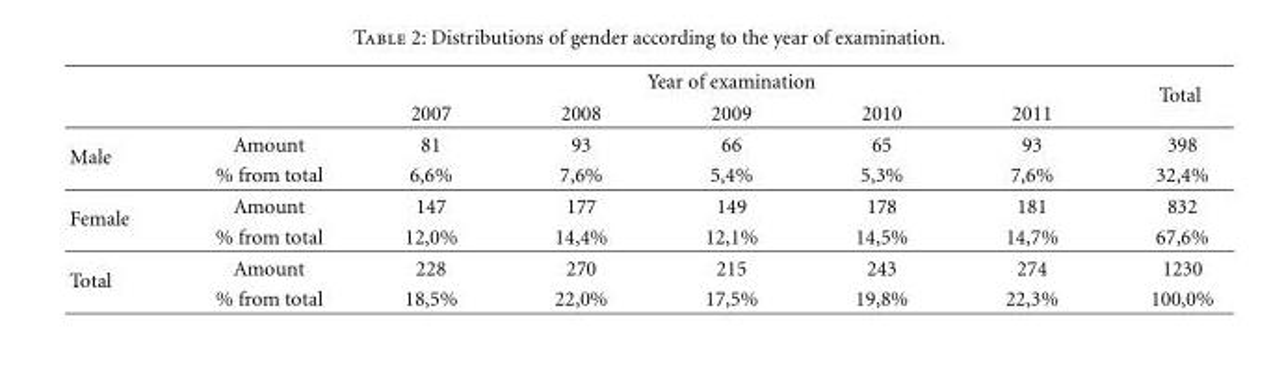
<table><thead><tr><td rowspan="2"></td><td rowspan="2"></td><td colspan="5">Year of examination</td><td rowspan="2">Total</td></tr><tr><td>2007</td><td>2008</td><td>2009</td><td>2010</td><td>2011</td></tr></thead><tbody><tr><td rowspan="2">Male</td><td>Amount</td><td>81</td><td>93</td><td>66</td><td>65</td><td>93</td><td>398</td></tr><tr><td>% from total</td><td>6,6%</td><td>7,6%</td><td>5,4%</td><td>5,3%</td><td>7,6%</td><td>32,4%</td></tr><tr><td rowspan="2">Female</td><td>Amount</td><td>147</td><td>177</td><td>149</td><td>178</td><td>181</td><td>832</td></tr><tr><td>% from total</td><td>12,0%</td><td>14,4%</td><td>12,1%</td><td>14,5%</td><td>14,7%</td><td>67,6%</td></tr><tr><td rowspan="2">Total</td><td>Amount</td><td>228</td><td>270</td><td>215</td><td>243</td><td>274</td><td>1230</td></tr><tr><td>% from total</td><td>18,5%</td><td>22,0%</td><td>17,5%</td><td>19,8%</td><td>22,3%</td><td>100,0%</td></tr></tbody></table>